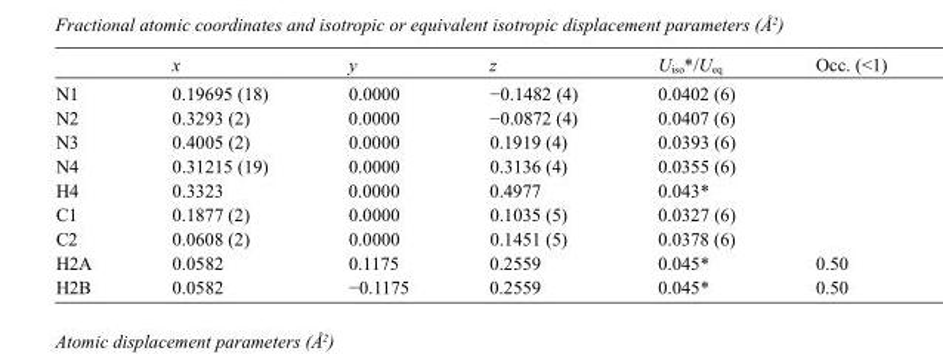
<table><thead><tr><td></td><td>x</td><td>y</td><td>z</td><td>U<sub>iso</sub>*/U<sub>eq</sub></td><td>Occ. (&lt;1)</td></tr></thead><tbody><tr><td>N1</td><td>0.19695 (18)</td><td>0.0000</td><td>−0.1482 (4)</td><td>0.0402 (6)</td><td></td></tr><tr><td>N2</td><td>0.3293 (2)</td><td>0.0000</td><td>−0.0872 (4)</td><td>0.0407 (6)</td><td></td></tr><tr><td>N3</td><td>0.4005 (2)</td><td>0.0000</td><td>0.1919 (4)</td><td>0.0393 (6)</td><td></td></tr><tr><td>N4</td><td>0.31215 (19)</td><td>0.0000</td><td>0.3136 (4)</td><td>0.0355 (6)</td><td></td></tr><tr><td>H4</td><td>0.3323</td><td>0.0000</td><td>0.4977</td><td>0.043*</td><td></td></tr><tr><td>C1</td><td>0.1877 (2)</td><td>0.0000</td><td>0.1035 (5)</td><td>0.0327 (6)</td><td></td></tr><tr><td>C2</td><td>0.0608 (2)</td><td>0.0000</td><td>0.1451 (5)</td><td>0.0378 (6)</td><td></td></tr><tr><td>H2A</td><td>0.0582</td><td>0.1175</td><td>0.2559</td><td>0.045*</td><td>0.50</td></tr><tr><td>H2B</td><td>0.0582</td><td>−0.1175</td><td>0.2559</td><td>0.045*</td><td>0.50</td></tr></tbody></table>